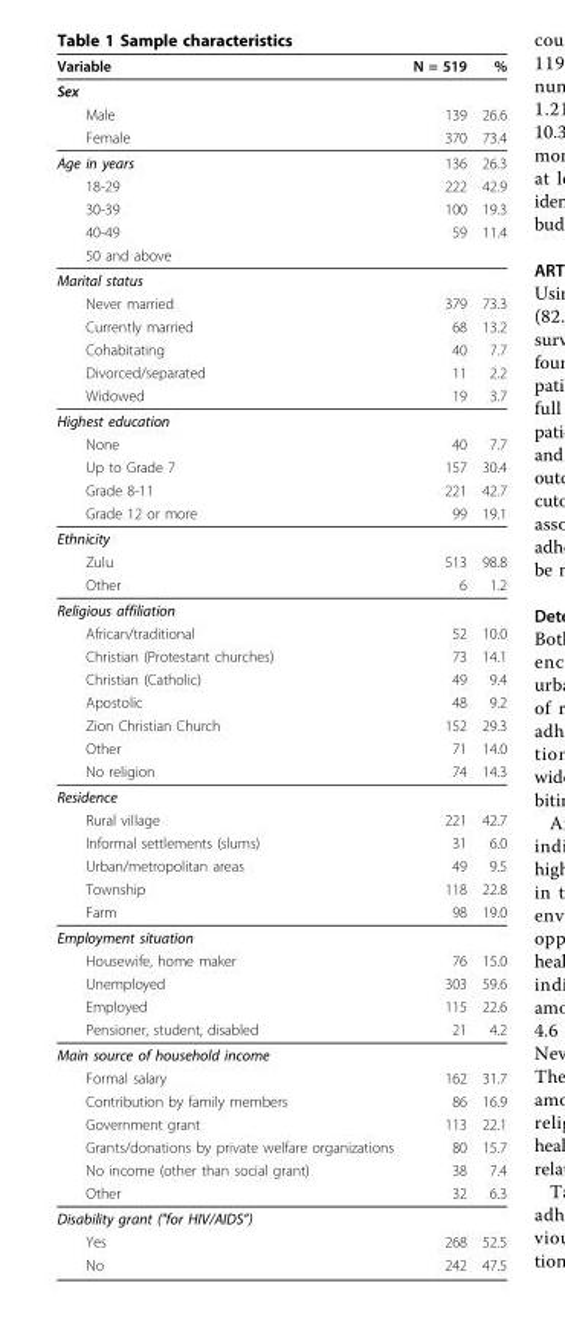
<table><thead><tr><td>Variable</td><td>N = 519</td><td>%</td></tr></thead><tbody><tr><td colspan="3">Sex</td></tr><tr><td>Male</td><td>139</td><td>26.6</td></tr><tr><td>Female</td><td>370</td><td>73.4</td></tr><tr><td>Age in years</td><td>136</td><td>26.3</td></tr><tr><td>18-29</td><td>222</td><td>42.9</td></tr><tr><td>30-39</td><td>100</td><td>19.3</td></tr><tr><td>40-49</td><td>59</td><td>11.4</td></tr><tr><td colspan="3">50 and above</td></tr><tr><td colspan="3">Marital status</td></tr><tr><td>Never married</td><td>379</td><td>73.3</td></tr><tr><td>Currently married</td><td>68</td><td>13.2</td></tr><tr><td>Cohabitating</td><td>40</td><td>7.7</td></tr><tr><td>Divorced/separated</td><td>11</td><td>2.2</td></tr><tr><td>Widowed</td><td>19</td><td>3.7</td></tr><tr><td colspan="3">Highest education</td></tr><tr><td>None</td><td>40</td><td>7.7</td></tr><tr><td>Up to Grade 7</td><td>157</td><td>30.4</td></tr><tr><td>Grade 8-11</td><td>221</td><td>42.7</td></tr><tr><td>Grade 12 or more</td><td>99</td><td>19.1</td></tr><tr><td colspan="3">Ethnicity</td></tr><tr><td>Zulu</td><td>513</td><td>98.8</td></tr><tr><td>Other</td><td>6</td><td>1.2</td></tr><tr><td colspan="3">Religious affiliation</td></tr><tr><td>African/traditional</td><td>52</td><td>10.0</td></tr><tr><td>Christian (Protestant churches)</td><td>73</td><td>14.1</td></tr><tr><td>Christian (Catholic)</td><td>49</td><td>9.4</td></tr><tr><td>Apostolic</td><td>48</td><td>9.2</td></tr><tr><td>Zion Christian Church</td><td>152</td><td>29.3</td></tr><tr><td>Other</td><td>71</td><td>14.0</td></tr><tr><td>No religion</td><td>74</td><td>14.3</td></tr><tr><td colspan="3">Residence</td></tr><tr><td>Rural village</td><td>221</td><td>42.7</td></tr><tr><td>Informal settlements (slums)</td><td>31</td><td>6.0</td></tr><tr><td>Urban/metropolitan areas</td><td>49</td><td>9.5</td></tr><tr><td>Township</td><td>118</td><td>22.8</td></tr><tr><td>Farm</td><td>98</td><td>19.0</td></tr><tr><td colspan="3">Employment situation</td></tr><tr><td>Housewife, home maker</td><td>76</td><td>15.0</td></tr><tr><td>Unemployed</td><td>303</td><td>59.6</td></tr><tr><td>Employed</td><td>115</td><td>22.6</td></tr><tr><td>Pensioner, student, disabled</td><td>21</td><td>4.2</td></tr><tr><td colspan="3">Main source of household income</td></tr><tr><td>Formal salary</td><td>162</td><td>31.7</td></tr><tr><td>Contribution by family members</td><td>86</td><td>16.9</td></tr><tr><td>Government grant</td><td>113</td><td>22.1</td></tr><tr><td>Grants/donations by private welfare organizations</td><td>80</td><td>15.7</td></tr><tr><td>No income (other than social grant)</td><td>38</td><td>7.4</td></tr><tr><td>Other</td><td>32</td><td>6.3</td></tr><tr><td colspan="3">Disability grant (&quot;for HIV/AIDS”)</td></tr><tr><td>Yes</td><td>268</td><td>52.5</td></tr><tr><td>No</td><td>242</td><td>47.5</td></tr></tbody></table>